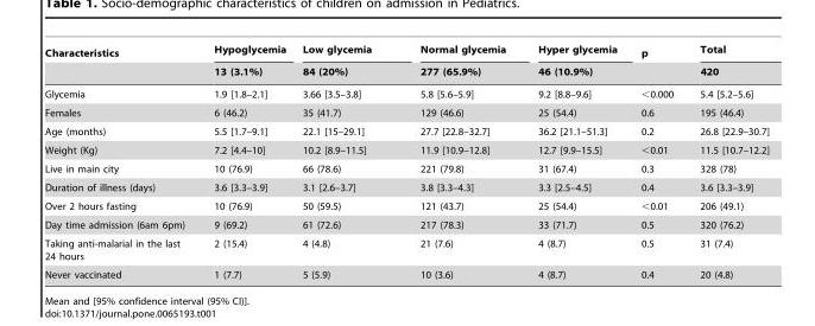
<table><thead><tr><td rowspan="2">Characteristics</td><td rowspan="2">Hypoglycemia 13 (3.1%)</td><td rowspan="2">Low glycemia 84 (20%)</td><td rowspan="2">Normal glycemia 277 (65.9%)</td><td rowspan="2">Hyper glycemia 46 (10.9%)</td><td rowspan="2">p</td><td rowspan="2">Total 420</td></tr><tr></tr></thead><tbody><tr><td>Glycemia</td><td>1.9 [1.8–2.1]</td><td>3.66 [3.5–3.8]</td><td>5.8 [5.6–5.9]</td><td>9.2 [8.8–9.6]</td><td>&lt;0.000</td><td>5.4 [5.2–5.6]</td></tr><tr><td>Females</td><td>6 (46.2)</td><td>35 (41.7)</td><td>129 (46.6)</td><td>25 (54.4)</td><td>0.6</td><td>195 (46.4)</td></tr><tr><td>Age (months)</td><td>5.5 [1.7–9.1]</td><td>22.1 [15–29.1]</td><td>27.7 [22.8–32.7]</td><td>36.2 [21.1–51.3]</td><td>0.2</td><td>26.8 [22.9–30.7]</td></tr><tr><td>Weight (Kg)</td><td>7.2 [4.4–10]</td><td>10.2 [8.9–11.5]</td><td>11.9 [10.9–12.8]</td><td>12.7 [9.9–15.5]</td><td>&lt;0.01</td><td>11.5 [10.7–12.2]</td></tr><tr><td>Live in main city</td><td>10 (76.9)</td><td>66 (78.6)</td><td>221 (79.8)</td><td>31 (67.4)</td><td>0.3</td><td>328 (78)</td></tr><tr><td>Duration of illness (days)</td><td>3.6 [3.3–3.9]</td><td>3.1 [2.6–3.7]</td><td>3.8 [3.3–4.3]</td><td>3.3 [2.5–4.5]</td><td>0.4</td><td>3.6 [3.3–3.9]</td></tr><tr><td>Over 2 hours fasting</td><td>10 (76.9)</td><td>50 (59.5)</td><td>121 (43.7)</td><td>25 (54.4)</td><td>&lt;0.01</td><td>206 (49.1)</td></tr><tr><td>Day time admission (6am 6pm)</td><td>9 (69.2)</td><td>61 (72.6)</td><td>217 (78.3)</td><td>33 (71.7)</td><td>0.5</td><td>320 (76.2)</td></tr><tr><td>Taking anti-malarial in the last 24 hours</td><td>2 (15.4)</td><td>4 (4.8)</td><td>21 (7.6)</td><td>4 (8.7)</td><td>0.5</td><td>31 (7.4)</td></tr><tr><td>Never vaccinated</td><td>1 (7.7)</td><td>5 (5.9)</td><td>10 (3.6)</td><td>4 (8.7)</td><td>0.4</td><td>20 (4.8)</td></tr></tbody></table>